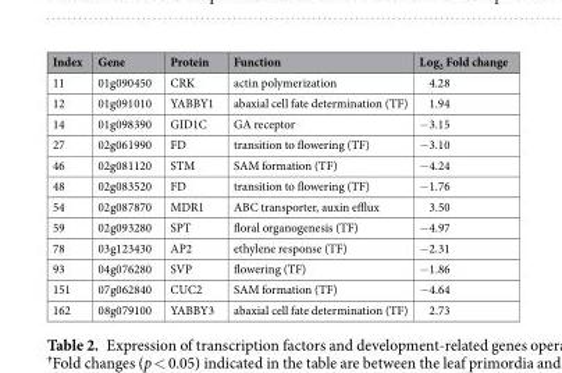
<table><thead><tr><td>Index</td><td>Gene</td><td>Protein</td><td>Function</td><td>Log<sub>2</sub> Fold change</td></tr></thead><tbody><tr><td>11</td><td>01g090450</td><td>CRK</td><td>actin polymerization</td><td>4.28</td></tr><tr><td>12</td><td>01g091010</td><td>YABBY1</td><td>abaxial cell fate determination (TF)</td><td>1.94</td></tr><tr><td>14</td><td>01g098390</td><td>GID1C</td><td>GA receptor</td><td>−3.15</td></tr><tr><td>27</td><td>02g061990</td><td>FD</td><td>transition to flowering (TF)</td><td>−3.10</td></tr><tr><td>46</td><td>02g081120</td><td>STM</td><td>SAM formation (TF)</td><td>−4.24</td></tr><tr><td>48</td><td>02g083520</td><td>FD</td><td>transition to flowering (TF)</td><td>−1.76</td></tr><tr><td>54</td><td>02g087870</td><td>MDR1</td><td>ABC transporter, auxin efflux</td><td>3.50</td></tr><tr><td>59</td><td>02g093280</td><td>SPT</td><td>floral organogenesis (TF)</td><td>−4.97</td></tr><tr><td>78</td><td>03g123430</td><td>AP2</td><td>ethylene response (TF)</td><td>−2.31</td></tr><tr><td>93</td><td>04g076280</td><td>SVP</td><td>flowering (TF)</td><td>−1.86</td></tr><tr><td>151</td><td>07g062840</td><td>CUC2</td><td>SAM formation (TF)</td><td>−4.64</td></tr><tr><td>162</td><td>08g079100</td><td>YABBY3</td><td>abaxial cell fate determination (TF)</td><td>2.73</td></tr></tbody></table>